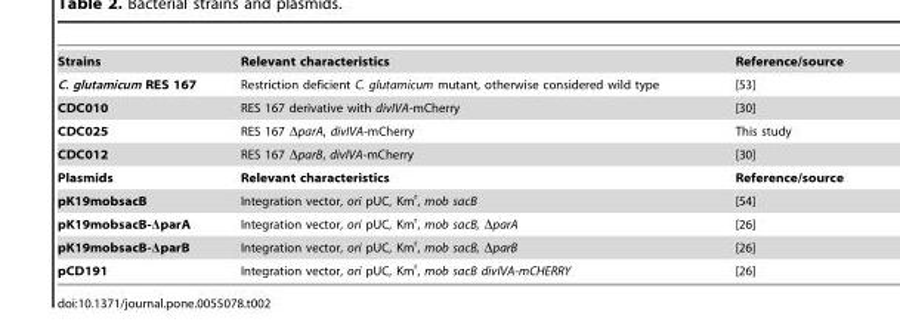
<table><tbody><tr><td>Strains</td><td>Relevant characteristics</td><td>Reference/source</td></tr><tr><td>C. glutamicum RES 167</td><td>Restriction deficient C. glutamicum mutant, otherwise considered wild type</td><td>[53]</td></tr><tr><td>CDC010</td><td>RES 167 derivative with divIVA-mCherry</td><td>[30]</td></tr><tr><td>CDC025</td><td>RES 167 ΔparA, divIVA-mCherry</td><td>This study</td></tr><tr><td>CDC012</td><td>RES 167 ΔparB, divIVA-mCherry</td><td>[30]</td></tr><tr><td>Plasmids</td><td>Relevant characteristics</td><td>Reference/source</td></tr><tr><td>pK19mobsacB</td><td>Integration vector, ori pUC, Km<sup>r</sup>, mob sacB</td><td>[54]</td></tr><tr><td>pK19mobsacB-ΔparA</td><td>Integration vector, ori pUC, Km<sup>r</sup>, mob sacB, ΔparA</td><td>[26]</td></tr><tr><td>pK19mobsacB-ΔparB</td><td>Integration vector, ori pUC, Km<sup>r</sup>, mob sacB, ΔparB</td><td>[26]</td></tr><tr><td>pCD191</td><td>Integration vector, ori pUC, Km<sup>r</sup>, mob sacB divIVA-mCHERRY</td><td>[26]</td></tr></tbody></table>